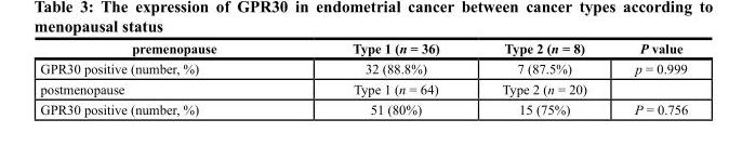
<table><thead><tr><td>premenopause</td><td>Type 1 (n = 36)</td><td>Type 2 (n = 8)</td><td>P value</td></tr></thead><tbody><tr><td>GPR30 positive (number, %)</td><td>32 (88.8%)</td><td>7 (87.5%)</td><td>p = 0.999</td></tr><tr><td>postmenopause</td><td>Type 1 (n = 64)</td><td>Type 2 (n = 20)</td><td></td></tr><tr><td>GPR30 positive (number, %)</td><td>51 (80%)</td><td>15 (75%)</td><td>P = 0.756</td></tr></tbody></table>